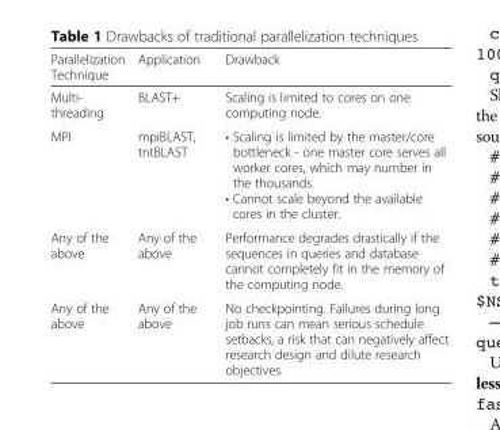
<table><thead><tr><td>Parallelization Technique</td><td>Application</td><td>Drawback</td></tr></thead><tbody><tr><td>Multi- threading</td><td>BLAST+</td><td>Scaling is limited to cores on one computing node.</td></tr><tr><td>MPI</td><td>mpiBLAST, tntBLAST</td><td>• Scaling is limited by the master/core bottleneck - one master core serves all worker cores, which may number in the thousands. • Cannot scale beyond the available cores in the cluster.</td></tr><tr><td>Any of the above</td><td>Any of the above</td><td>Performance degrades drastically if the sequences in queries and database cannot completely fit in the memory of the computing node.</td></tr><tr><td>Any of the above</td><td>Any of the above</td><td>No checkpointing. Failures during long job runs can mean serious schedule setbacks, a risk that can negatively affect research design and dilute research objectives.</td></tr></tbody></table>